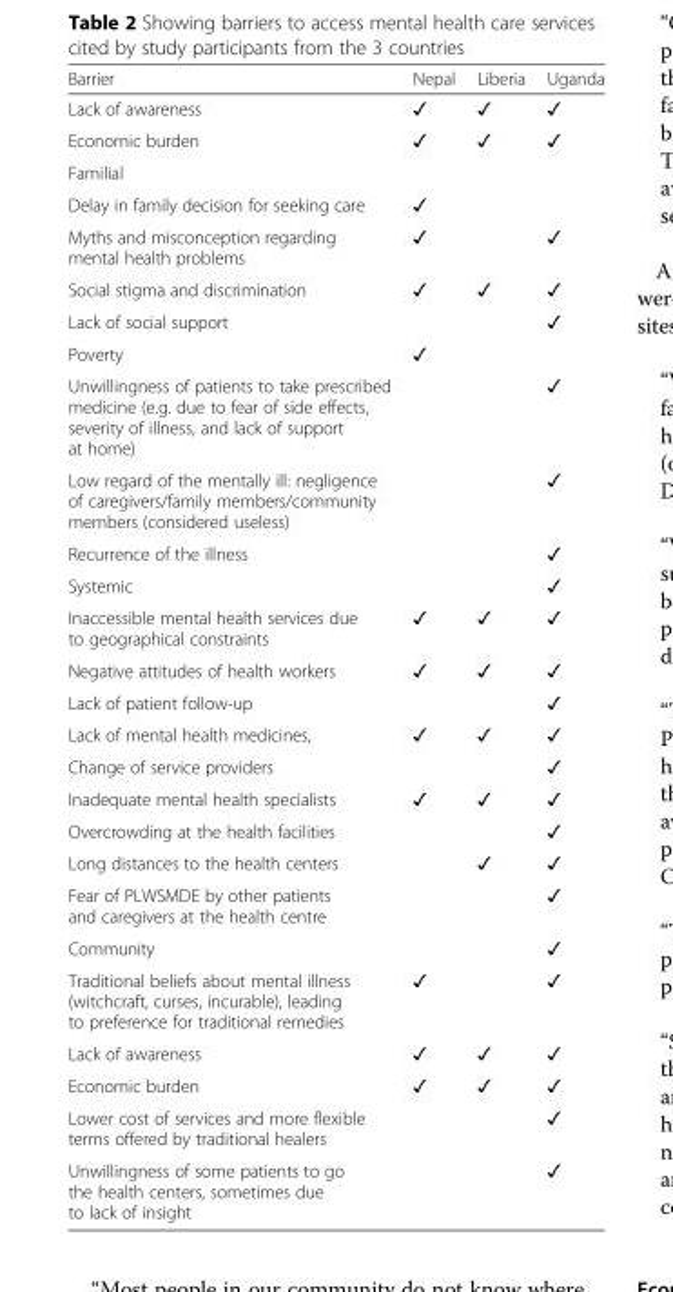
<table><thead><tr><td>Barrier</td><td>Nepal</td><td>Liberia</td><td>Uganda</td></tr></thead><tbody><tr><td>Lack of awareness</td><td>✓</td><td>✓</td><td>✓</td></tr><tr><td>Economic burden</td><td>✓</td><td>✓</td><td>✓</td></tr><tr><td colspan="4">Familial</td></tr><tr><td>Delay in family decision for seeking care</td><td>✓</td><td></td><td></td></tr><tr><td>Myths and misconception regarding mental health problems</td><td>✓</td><td></td><td>✓</td></tr><tr><td>Social stigma and discrimination</td><td>✓</td><td>✓</td><td>✓</td></tr><tr><td>Lack of social support</td><td></td><td></td><td>✓</td></tr><tr><td>Poverty</td><td>✓</td><td></td><td></td></tr><tr><td>Unwillingness of patients to take prescribed medicine (e.g. due to fear of side effects, severity of illness, and lack of support at home)</td><td></td><td></td><td>✓</td></tr><tr><td>Low regard of the mentally ill: negligence of caregivers/family members/community members (considered useless)</td><td></td><td></td><td>✓</td></tr><tr><td>Recurrence of the illness</td><td></td><td></td><td>✓</td></tr><tr><td>Systemic</td><td></td><td></td><td>✓</td></tr><tr><td>Inaccessible mental health services due to geographical constraints</td><td>✓</td><td>✓</td><td>✓</td></tr><tr><td>Negative attitudes of health workers</td><td>✓</td><td>✓</td><td>✓</td></tr><tr><td>Lack of patient follow-up</td><td></td><td></td><td>✓</td></tr><tr><td>Lack of mental health medicines,</td><td>✓</td><td>✓</td><td>✓</td></tr><tr><td>Change of service providers</td><td></td><td></td><td>✓</td></tr><tr><td>Inadequate mental health specialists</td><td>✓</td><td>✓</td><td>✓</td></tr><tr><td>Overcrowding at the health facilities</td><td></td><td></td><td>✓</td></tr><tr><td>Long distances to the health centers</td><td></td><td>✓</td><td>✓</td></tr><tr><td>Fear of PLWSMDE by other patients and caregivers at the health centre</td><td></td><td></td><td>✓</td></tr><tr><td>Community</td><td></td><td></td><td>✓</td></tr><tr><td>Traditional beliefs about mental illness (witchcraft, curses, incurable), leading to preference for traditional remedies</td><td>✓</td><td></td><td>✓</td></tr><tr><td>Lack of awareness</td><td>✓</td><td>✓</td><td>✓</td></tr><tr><td>Economic burden</td><td>✓</td><td>✓</td><td>✓</td></tr><tr><td>Lower cost of services and more flexible terms offered by traditional healers</td><td></td><td></td><td>✓</td></tr><tr><td>Unwillingness of some patients to go the health centers, sometimes due to lack of insight</td><td></td><td></td><td>✓</td></tr></tbody></table>